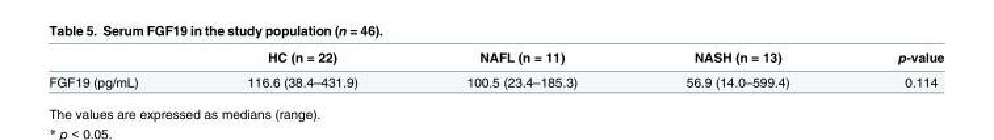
<table><thead><tr><td></td><td>HC (n = 22)</td><td>NAFL (n = 11)</td><td>NASH (n = 13)</td><td>p-value</td></tr></thead><tbody><tr><td>FGF19 (pg/mL)</td><td>116.6 (38.4–431.9)</td><td>100.5 (23.4–185.3)</td><td>56.9 (14.0–599.4)</td><td>0.114</td></tr></tbody></table>